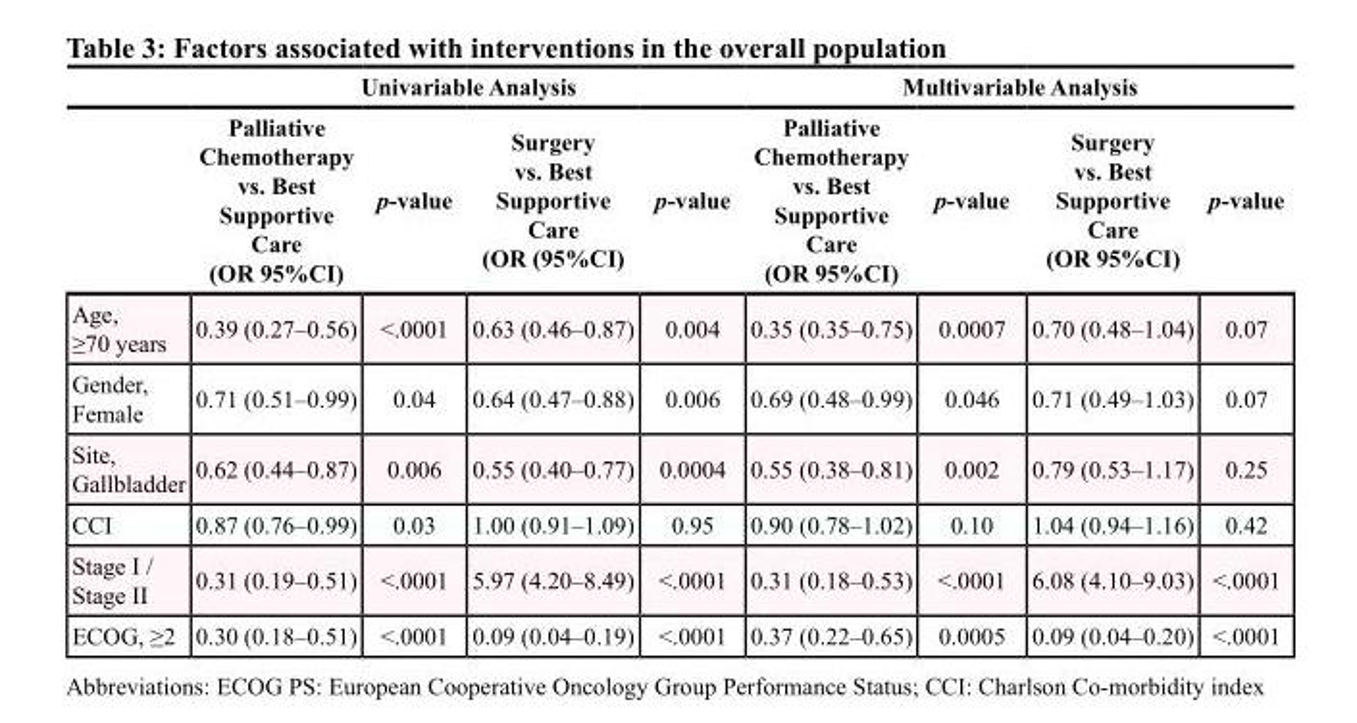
<table><thead><tr><td rowspan="2"></td><td colspan="4">Univariable Analysis</td><td colspan="4">Multivariable Analysis</td></tr><tr><td>Palliative Chemotherapy vs. Best Supportive Care (OR 95%CI)</td><td>p-value</td><td>Surgery vs. Best Supportive Care (OR (95%CI)</td><td>p-value</td><td>Palliative Chemotherapy vs. Best Supportive Care (OR 95%CI)</td><td>p-value</td><td>Surgery vs. Best Supportive Care (OR 95%CI)</td><td>p-value</td></tr></thead><tbody><tr><td>Age, ≥70 years</td><td>0.39 (0.27–0.56)</td><td>&lt;.0001</td><td>0.63 (0.46–0.87)</td><td>0.004</td><td>0.35 (0.35–0.75)</td><td>0.0007</td><td>0.70 (0.48–1.04)</td><td>0.07</td></tr><tr><td>Gender, Female</td><td>0.71 (0.51–0.99)</td><td>0.04</td><td>0.64 (0.47–0.88)</td><td>0.006</td><td>0.69 (0.48–0.99)</td><td>0.046</td><td>0.71 (0.49–1.03)</td><td>0.07</td></tr><tr><td>Site, Gallbladder</td><td>0.62 (0.44–0.87)</td><td>0.006</td><td>0.55 (0.40–0.77)</td><td>0.0004</td><td>0.55 (0.38–0.81)</td><td>0.002</td><td>0.79 (0.53–1.17)</td><td>0.25</td></tr><tr><td>CCI</td><td>0.87 (0.76–0.99)</td><td>0.03</td><td>1.00 (0.91–1.09)</td><td>0.95</td><td>0.90 (0.78–1.02)</td><td>0.10</td><td>1.04 (0.94–1.16)</td><td>0.42</td></tr><tr><td>Stage I / Stage II</td><td>0.31 (0.19–0.51)</td><td>&lt;.0001</td><td>5.97 (4.20–8.49)</td><td>&lt;.0001</td><td>0.31 (0.18–0.53)</td><td>&lt;.0001</td><td>6.08 (4.10–9.03)</td><td>&lt;.0001</td></tr><tr><td>ECOG, ≥2</td><td>0.30 (0.18–0.51)</td><td>&lt;.0001</td><td>0.09 (0.04–0.19)</td><td>&lt;.0001</td><td>0.37 (0.22–0.65)</td><td>0.0005</td><td>0.09 (0.04–0.20)</td><td>&lt;.0001</td></tr></tbody></table>